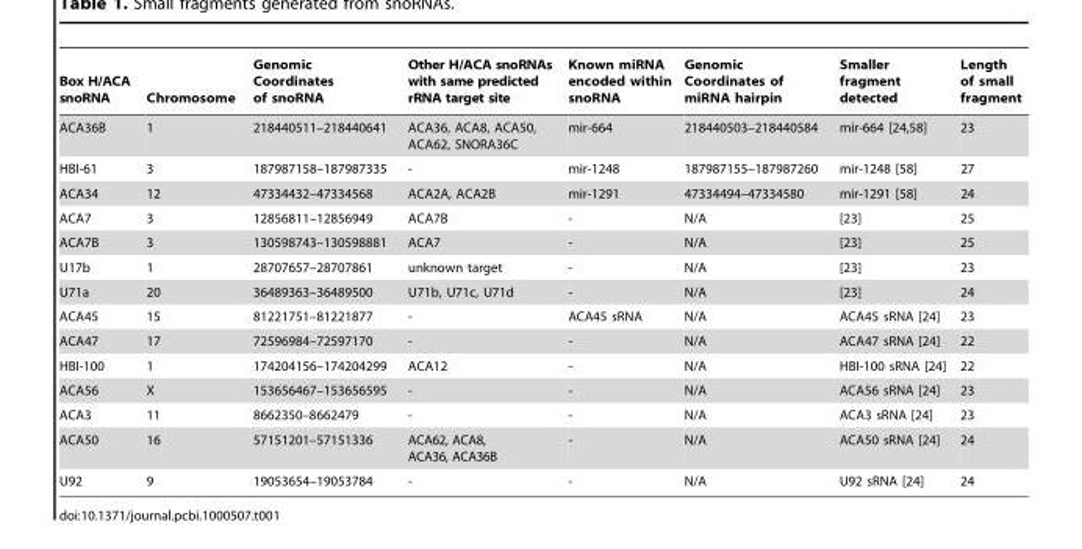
<table><thead><tr><td>Box H/ACA snoRNA</td><td>Chromosome</td><td>Genomic Coordinates of snoRNA</td><td>Other H/ACA snoRNAs with same predicted rRNA target site</td><td>Known miRNA encoded within snoRNA</td><td>Genomic Coordinates of miRNA hairpin</td><td>Smaller fragment detected</td><td>Length of small fragment</td></tr></thead><tbody><tr><td>ACA36B</td><td>1</td><td>218440511–218440641</td><td>ACA36, ACA8, ACA50, ACA62, SNORA36C</td><td>mir-664</td><td>218440503–218440584</td><td>mir-664 [24,58]</td><td>23</td></tr><tr><td>HBI-61</td><td>3</td><td>187987158–187987335</td><td>-</td><td>mir-1248</td><td>187987155–187987260</td><td>mir-1248 [58]</td><td>27</td></tr><tr><td>ACA34</td><td>12</td><td>47334432–47334568</td><td>ACA2A, ACA2B</td><td>mir-1291</td><td>47334494–47334580</td><td>mir-1291 [58]</td><td>24</td></tr><tr><td>ACA7</td><td>3</td><td>12856811–12856949</td><td>ACA7B</td><td>-</td><td>N/A</td><td>[23]</td><td>25</td></tr><tr><td>ACA7B</td><td>3</td><td>130598743–130598881</td><td>ACA7</td><td>-</td><td>N/A</td><td>[23]</td><td>25</td></tr><tr><td>U17b</td><td>1</td><td>28707657–28707861</td><td>unknown target</td><td>-</td><td>N/A</td><td>[23]</td><td>23</td></tr><tr><td>U71a</td><td>20</td><td>36489363–36489500</td><td>U71b, U71c, U71d</td><td>-</td><td>N/A</td><td>[23]</td><td>24</td></tr><tr><td>ACA45</td><td>15</td><td>81221751–81221877</td><td>-</td><td>ACA45 sRNA</td><td>N/A</td><td>ACA45 sRNA [24]</td><td>23</td></tr><tr><td>ACA47</td><td>17</td><td>72596984–72597170</td><td>-</td><td>-</td><td>N/A</td><td>ACA47 sRNA [24]</td><td>22</td></tr><tr><td>HBI-100</td><td>1</td><td>174204156–174204299</td><td>ACA12</td><td>-</td><td>N/A</td><td>HBI-100 sRNA [24]</td><td>22</td></tr><tr><td>ACA56</td><td>X</td><td>153656467–153656595</td><td>-</td><td>-</td><td>N/A</td><td>ACA56 sRNA [24]</td><td>23</td></tr><tr><td>ACA3</td><td>11</td><td>8662350–8662479</td><td>-</td><td>-</td><td>N/A</td><td>ACA3 sRNA [24]</td><td>23</td></tr><tr><td>ACA50</td><td>16</td><td>57151201–57151336</td><td>ACA62, ACA8, ACA36, ACA36B</td><td>-</td><td>N/A</td><td>ACA50 sRNA [24]</td><td>24</td></tr><tr><td>U92</td><td>9</td><td>19053654–19053784</td><td>-</td><td>-</td><td>N/A</td><td>U92 sRNA [24]</td><td>24</td></tr></tbody></table>